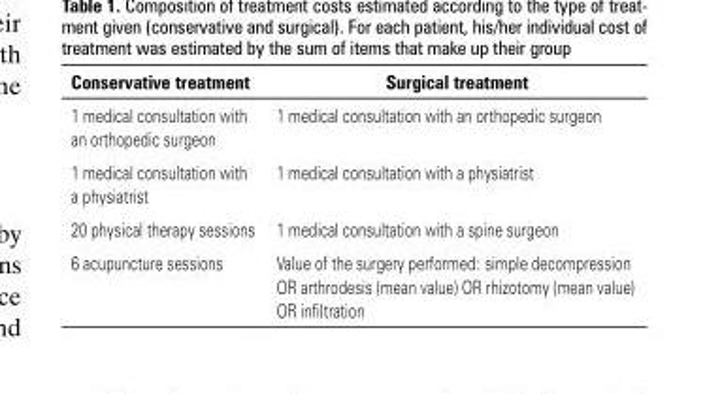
<table><thead><tr><td>conservative treatment</td><td>surgical treatment</td></tr></thead><tbody><tr><td>1 medical consultation with an orthopedic surgeon</td><td>1 medical consultation with an orthopedic surgeon</td></tr><tr><td>1 medical consultation with a physiatrist</td><td>1 medical consultation with a physiatrist</td></tr><tr><td>20 physical therapy sessions</td><td>1 medical consultation with a spine surgeon</td></tr><tr><td>6 acupuncture sessions</td><td>Value of the surgery performed: simple decompression OR arthrodesis (mean value) OR rhizotomy (mean value) OR infiltration</td></tr></tbody></table>